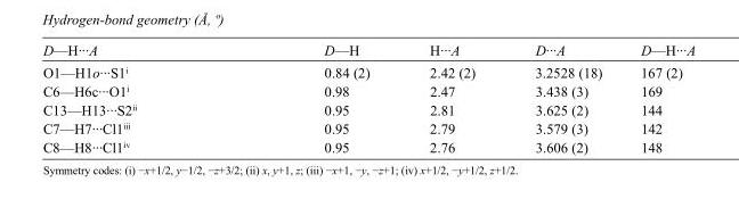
<table><tbody><tr><td>D—H···A</td><td>D—H</td><td>H···A</td><td>D···A</td><td>D—H···A</td></tr><tr><td>O1—H1o···S1<sup>i</sup></td><td>0.84 (2)</td><td>2.42 (2)</td><td>3.2528 (18)</td><td>167 (2)</td></tr><tr><td>C6—H6c···O1<sup>i</sup></td><td>0.98</td><td>2.47</td><td>3.438 (3)</td><td>169</td></tr><tr><td>C13—H13···S2<sup>ii</sup></td><td>0.95</td><td>2.81</td><td>3.625 (2)</td><td>144</td></tr><tr><td>C7—H7···Cl1<sup>iii</sup></td><td>0.95</td><td>2.79</td><td>3.579 (3)</td><td>142</td></tr><tr><td>C8—H8···Cl1<sup>iv</sup></td><td>0.95</td><td>2.76</td><td>3.606 (2)</td><td>148</td></tr></tbody></table>